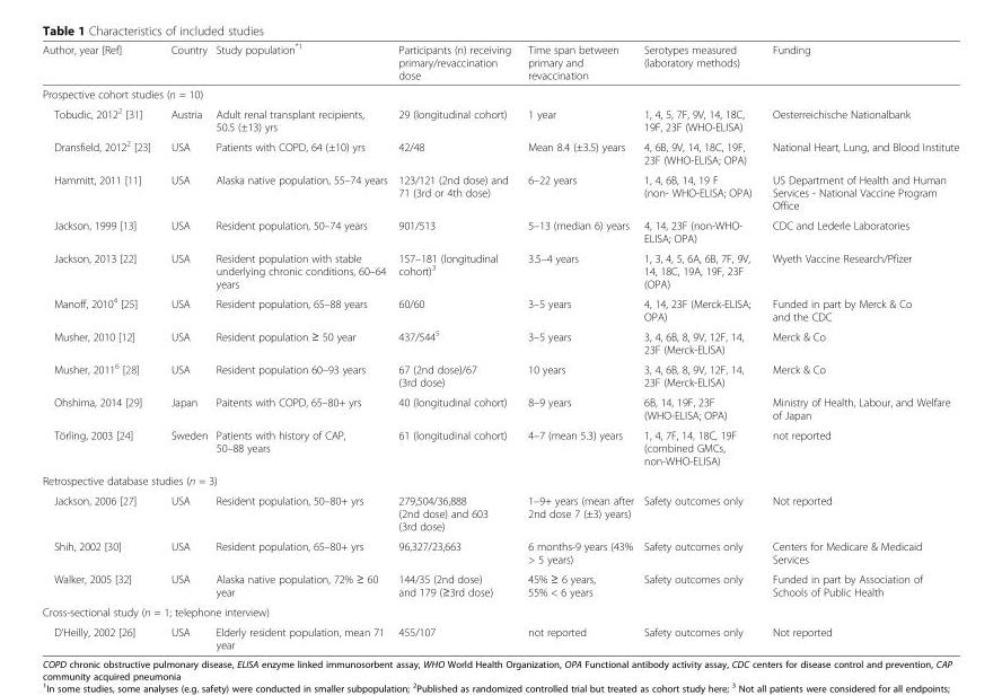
<table><thead><tr><td>Author, year [Ref]</td><td>Country</td><td>Study population<sup>*1</sup></td><td>Participants (n) receiving primary/revaccination dose</td><td>Time span between primary and revaccination</td><td>Serotypes measured (laboratory methods)</td><td>Funding</td></tr></thead><tbody><tr><td colspan="7">Prospective cohort studies (n = 10)</td></tr><tr><td>Tobudic, 2012<sup>2</sup> [31]</td><td>Austria</td><td>Adult renal transplant recipients, 50.5 (±13) yrs</td><td>29 (longitudinal cohort)</td><td>1 year</td><td>1, 4, 5, 7F, 9V, 14, 18C, 19F, 23F (WHO-ELISA)</td><td>Oesterreichische Nationalbank</td></tr><tr><td>Dransfield, 2012<sup>2</sup> [23]</td><td>USA</td><td>Patients with COPD, 64 (±10) yrs</td><td>42/48</td><td>Mean 8.4 (±3.5) years</td><td>4, 6B, 9V, 14, 18C, 19F, 23F (WHO-ELISA; OPA)</td><td>National Heart, Lung, and Blood Institute</td></tr><tr><td>Hammitt, 2011 [11]</td><td>USA</td><td>Alaska native population, 55–74 years</td><td>123/121 (2nd dose) and 71 (3rd or 4th dose)</td><td>6–22 years</td><td>1, 4, 6B, 14, 19 F (non- WHO-ELISA; OPA)</td><td>US Department of Health and Human Services - National Vaccine Program Office</td></tr><tr><td>Jackson, 1999 [13]</td><td>USA</td><td>Resident population, 50–74 years</td><td>901/513</td><td>5–13 (median 6) years</td><td>4, 14, 23F (non-WHO- ELISA; OPA)</td><td>CDC and Lederle Laboratories</td></tr><tr><td>Jackson, 2013 [22]</td><td>USA</td><td>Resident population with stable underlying chronic conditions, 60–64 years</td><td>157–181 (longitudinal cohort)<sup>3</sup></td><td>3.5–4 years</td><td>1, 3, 4, 5, 6A, 6B, 7F, 9V, 14, 18C, 19A, 19F, 23F (OPA)</td><td>Wyeth Vaccine Research/Pfizer</td></tr><tr><td>Manoff, 2010<sup>4</sup> [25]</td><td>USA</td><td>Resident population, 65–88 years</td><td>60/60</td><td>3–5 years</td><td>4, 14, 23F (Merck-ELISA; OPA)</td><td>Funded in part by Merck &amp; Co and the CDC</td></tr><tr><td>Musher, 2010 [12]</td><td>USA</td><td>Resident population ≥ 50 year</td><td>437/544<sup>5</sup></td><td>3–5 years</td><td>3, 4, 6B, 8, 9V, 12F, 14, 23F (Merck-ELISA)</td><td>Merck &amp; Co</td></tr><tr><td>Musher, 2011<sup>6</sup> [28]</td><td>USA</td><td>Resident population 60–93 years</td><td>67 (2nd dose)/67 (3rd dose)</td><td>10 years</td><td>3, 4, 6B, 8, 9V, 12F, 14, 23F (Merck-ELISA)</td><td>Merck &amp; Co</td></tr><tr><td>Ohshima, 2014 [29]</td><td>Japan</td><td>Paitents with COPD, 65–80+ yrs</td><td>40 (longitudinal cohort)</td><td>8–9 years</td><td>6B, 14, 19F, 23F (WHO-ELISA; OPA)</td><td>Ministry of Health, Labour, and Welfare of Japan</td></tr><tr><td>Törling, 2003 [24]</td><td>Sweden</td><td>Patients with history of CAP, 50–88 years</td><td>61 (longitudinal cohort)</td><td>4–7 (mean 5.3) years</td><td>1, 4, 7F, 14, 18C, 19F (combined GMCs, non-WHO-ELISA)</td><td>not reported</td></tr><tr><td colspan="7">Retrospective database studies (n = 3)</td></tr><tr><td>Jackson, 2006 [27]</td><td>USA</td><td>Resident population, 50–80+ yrs</td><td>279,504/36,888 (2nd dose) and 603 (3rd dose)</td><td>1–9+ years (mean after 2nd dose 7 (±3) years)</td><td>Safety outcomes only</td><td>Not reported</td></tr><tr><td>Shih, 2002 [30]</td><td>USA</td><td>Resident population, 65–80+ yrs</td><td>96,327/23,663</td><td>6 months-9 years (43% &gt; 5 years)</td><td>Safety outcomes only</td><td>Centers for Medicare &amp; Medicaid Services</td></tr><tr><td>Walker, 2005 [32]</td><td>USA</td><td>Alaska native population, 72% ≥ 60 year</td><td>144/35 (2nd dose) and 179 (≥3rd dose)</td><td>45% ≥ 6 years, 55% &lt; 6 years</td><td>Safety outcomes only</td><td>Funded in part by Association of Schools of Public Health</td></tr><tr><td colspan="7">Cross-sectional study (n = 1; telephone interview)</td></tr><tr><td>D’Heilly, 2002 [26]</td><td>USA</td><td>Elderly resident population, mean 71 year</td><td>455/107</td><td>not reported</td><td>Safety outcomes only</td><td>Not reported</td></tr></tbody></table>